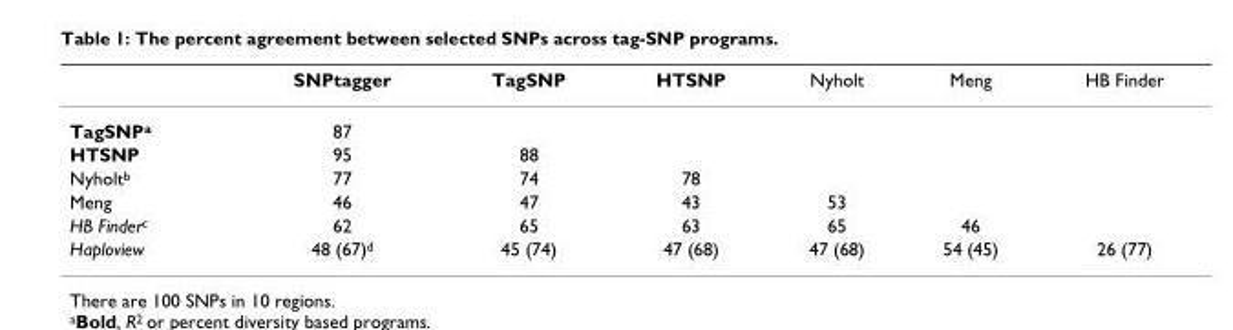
<table><thead><tr><td></td><td>SNPtagger</td><td>TagSNP</td><td>HTSNP</td><td>Nyholt</td><td>Meng</td><td>HB Finder</td></tr></thead><tbody><tr><td>TagSNPa</td><td>87</td><td></td><td></td><td></td><td></td><td></td></tr><tr><td>HTSNP</td><td>95</td><td>88</td><td></td><td></td><td></td><td></td></tr><tr><td>Nyholtb</td><td>77</td><td>74</td><td>78</td><td></td><td></td><td></td></tr><tr><td>Meng</td><td>46</td><td>47</td><td>43</td><td>53</td><td></td><td></td></tr><tr><td>HB Finderc</td><td>62</td><td>65</td><td>63</td><td>65</td><td>46</td><td></td></tr><tr><td>Haploview</td><td>48 (67)d</td><td>45 (74)</td><td>47 (68)</td><td>47 (68)</td><td>54 (45)</td><td>26 (77)</td></tr></tbody></table>